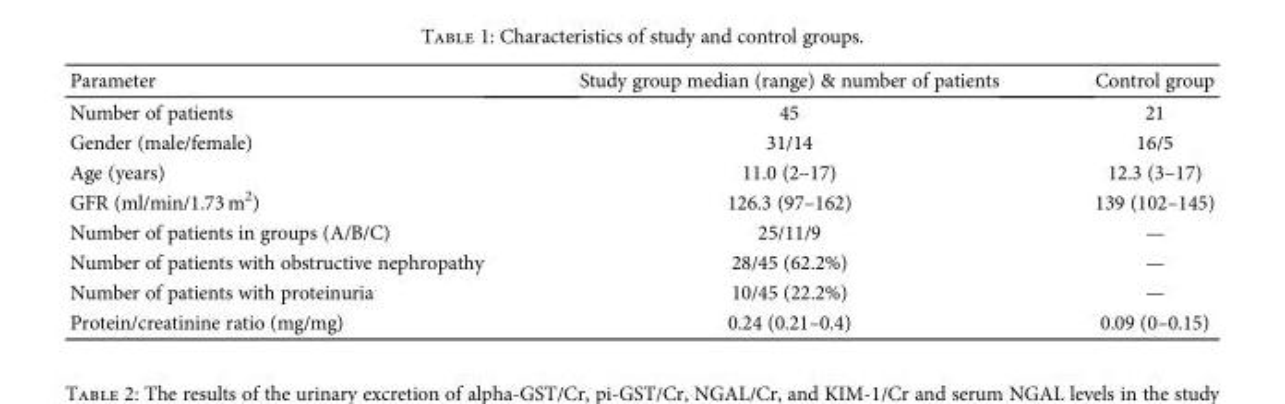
<table><thead><tr><td>Parameter</td><td>Study group median (range) &amp; number of patients</td><td>Control group</td></tr></thead><tbody><tr><td>Number of patients</td><td>45</td><td>21</td></tr><tr><td>Gender (male/female)</td><td>31/14</td><td>16/5</td></tr><tr><td>Age (years)</td><td>11.0 (2–17)</td><td>12.3 (3–17)</td></tr><tr><td>GFR (ml/min/1.73 m<sup>2</sup>)</td><td>126.3 (97–162)</td><td>139 (102–145)</td></tr><tr><td>Number of patients in groups (A/B/C)</td><td>25/11/9</td><td>—</td></tr><tr><td>Number of patients with obstructive nephropathy</td><td>28/45 (62.2%)</td><td>—</td></tr><tr><td>Number of patients with proteinuria</td><td>10/45 (22.2%)</td><td>—</td></tr><tr><td>Protein/creatinine ratio (mg/mg)</td><td>0.24 (0.21–0.4)</td><td>0.09 (0–0.15)</td></tr></tbody></table>